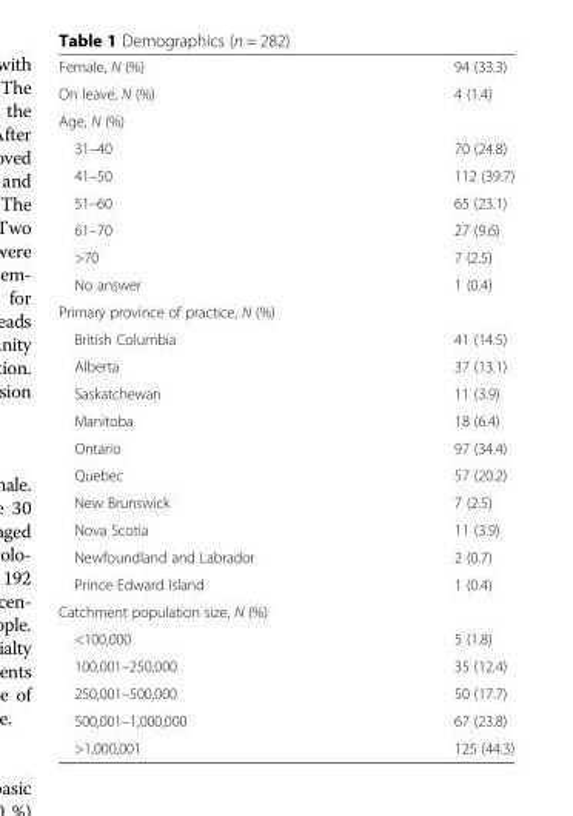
<table><tbody><tr><td>Female, N (%)</td><td>94 (33.3)</td></tr><tr><td>On leave, N (%)</td><td>4 (1.4)</td></tr><tr><td colspan="2">Age, N (%)</td></tr><tr><td>31–40</td><td>70 (24.8)</td></tr><tr><td>41–50</td><td>112 (39.7)</td></tr><tr><td>51–60</td><td>65 (23.1)</td></tr><tr><td>61–70</td><td>27 (9.6)</td></tr><tr><td>&gt;70</td><td>7 (2.5)</td></tr><tr><td>No answer</td><td>1 (0.4)</td></tr><tr><td colspan="2">Primary province of practice, N (%)</td></tr><tr><td>British Columbia</td><td>41 (14.5)</td></tr><tr><td>Alberta</td><td>37 (13.1)</td></tr><tr><td>Saskatchewan</td><td>11 (3.9)</td></tr><tr><td>Manitoba</td><td>18 (6.4)</td></tr><tr><td>Ontario</td><td>97 (34.4)</td></tr><tr><td>Quebec</td><td>57 (20.2)</td></tr><tr><td>New Brunswick</td><td>7 (2.5)</td></tr><tr><td>Nova Scotia</td><td>11 (3.9)</td></tr><tr><td>Newfoundland and Labrador</td><td>2 (0.7)</td></tr><tr><td>Prince Edward Island</td><td>1 (0.4)</td></tr><tr><td colspan="2">Catchment population size, N (%)</td></tr><tr><td>&lt;100,000</td><td>5 (1.8)</td></tr><tr><td>100,001–250,000</td><td>35 (12.4)</td></tr><tr><td>250,001–500,000</td><td>50 (17.7)</td></tr><tr><td>500,001–1,000,000</td><td>67 (23.8)</td></tr><tr><td>&gt;1,000,001</td><td>125 (44.3)</td></tr></tbody></table>